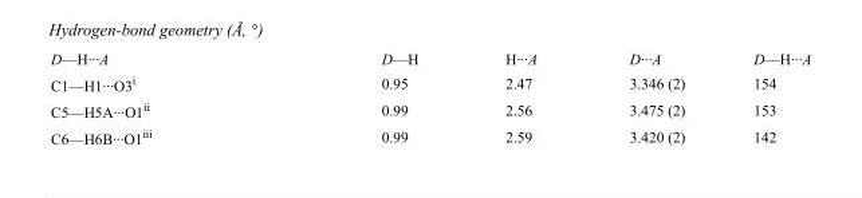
<table><tbody><tr><td>D—H···A</td><td>D—H</td><td>H···A</td><td>D···A</td><td>D—H···A</td></tr><tr><td>C1—H1···O3<sup>i</sup></td><td>0.95</td><td>2.47</td><td>3.346 (2)</td><td>154</td></tr><tr><td>C5—H5A···O1<sup>ii</sup></td><td>0.99</td><td>2.56</td><td>3.475 (2)</td><td>153</td></tr><tr><td>C6—H6B···O1<sup>iii</sup></td><td>0.99</td><td>2.59</td><td>3.420 (2)</td><td>142</td></tr></tbody></table>